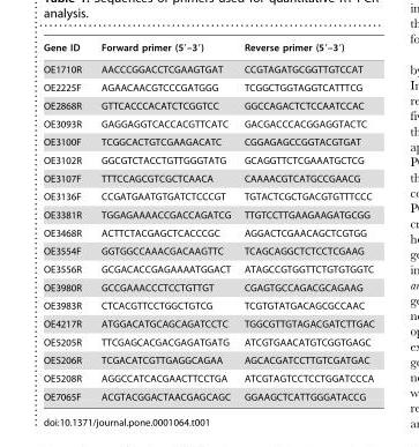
<table><thead><tr><td>Gene ID</td><td>Forward primer (5′–3′)</td><td>Reverse primer (5′–3′)</td></tr></thead><tbody><tr><td>OE1710R</td><td>AACCCGGACCTCGAAGTGAT</td><td>CCGTAGATGCGGTTGTCCAT</td></tr><tr><td>OE2225F</td><td>AGAACAACGTCCCGATGGG</td><td>TCGGCTGGTAGGTCATTTCG</td></tr><tr><td>OE2868R</td><td>GTTCACCCACATCTCGGTCC</td><td>GGCCAGACTCTCCAATCCAC</td></tr><tr><td>OE3093R</td><td>GAGGAGGTCACCACGTTCATC</td><td>GACGACCCACGGAGGTACTC</td></tr><tr><td>OE3100F</td><td>TCGGCACTGTCGAAGACATC</td><td>CGGAGAGCCGGTACGTGAT</td></tr><tr><td>OE3102R</td><td>GGCGTCTACCTGTTGGGTATG</td><td>GCAGGTTCTCGAAATGCTCG</td></tr><tr><td>OE3107F</td><td>TTTCCAGCGTCGCTCAACA</td><td>CAAAACGTCATGCCGAACG</td></tr><tr><td>OE3136F</td><td>CCGATGAATGTGATCTCCCGT</td><td>TGTACTCGCTGACGTGTTTCCC</td></tr><tr><td>OE3381R</td><td>TGGAGAAAACCGACCAGATCG</td><td>TTGTCCTTGAAGAAGATGCGG</td></tr><tr><td>OE3468R</td><td>ACTTCTACGAGCTCACCCGC</td><td>AGGACTCGAACAGCTCGTGG</td></tr><tr><td>OE3554F</td><td>GGTGGCCAAACGACAAGTTC</td><td>TCAGCAGGCTCTCCTCGAAG</td></tr><tr><td>OE3556R</td><td>GCGACACCGAGAAAATGGACT</td><td>ATAGCCGTGGTTCTGTGTGGTC</td></tr><tr><td>OE3980R</td><td>GCCGAAACCCTCCTGTTGT</td><td>CGAGTGCCAGACGCAGAAG</td></tr><tr><td>OE3983R</td><td>CTCACGTTCCTGGCTGTCG</td><td>TCGTGTATGACAGCGCCAAC</td></tr><tr><td>OE4217R</td><td>ATGGACATGCAGCAGATCCTC</td><td>TGGCGTTGTAGACGATCTTGAC</td></tr><tr><td>OE5205R</td><td>TTCGAGCACGACGAGATGATG</td><td>ATCGTGAACATGTCGGTGAGC</td></tr><tr><td>OE5206R</td><td>TCGACATCGTTGAGGCAGAA</td><td>AGCACGATCCTTGTCGATGAC</td></tr><tr><td>OE5208R</td><td>AGGCCATCACGAACTTCCTGA</td><td>ATCGTAGTCCTCCTGGATCCCA</td></tr><tr><td>OE7065F</td><td>ACGTACGGACTAACGAGCAGC</td><td>GGAAGCTCATTGGGATACCG</td></tr></tbody></table>